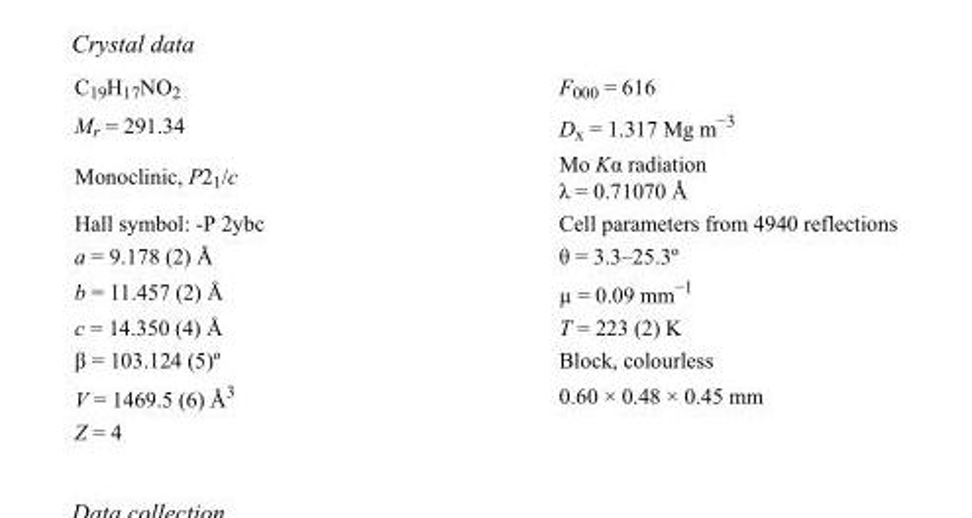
<table><tbody><tr><td>C<sub>19</sub>H<sub>17</sub>NO<sub>2</sub></td><td>F000 = 616</td></tr><tr><td>M<sub>r</sub> = 291.34</td><td>D<sub>x</sub> = 1.317 Mg m<sup>−3</sup></td></tr><tr><td>Monoclinic, P2<sub>1</sub>/c</td><td>Mo Kα radiation λ = 0.71070 Å</td></tr><tr><td>Hall symbol: -P 2ybc</td><td>Cell parameters from 4940 reflections</td></tr><tr><td>a = 9.178 (2) Å</td><td>θ = 3.3–25.3º</td></tr><tr><td>b = 11.457 (2) Å</td><td>µ = 0.09 mm<sup>−1</sup></td></tr><tr><td>c = 14.350 (4) Å</td><td>T = 223 (2) K</td></tr><tr><td>β = 103.124 (5)º</td><td>Block, colourless</td></tr><tr><td>V = 1469.5 (6) Å<sup>3</sup></td><td>0.60 × 0.48 × 0.45 mm</td></tr><tr><td>Z = 4</td><td></td></tr></tbody></table>